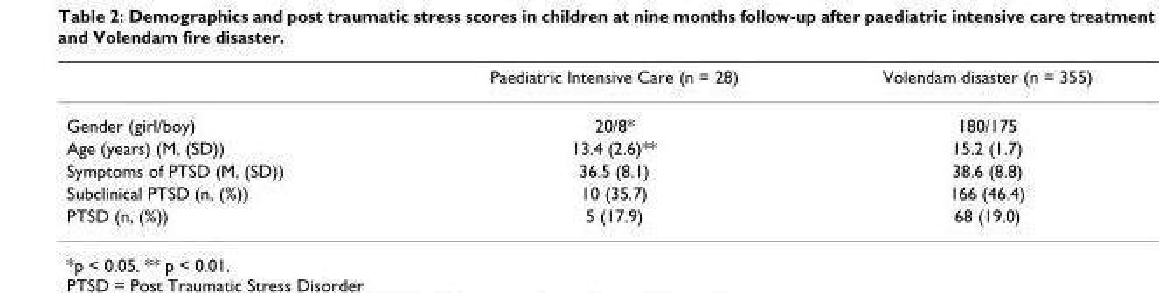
<table><thead><tr><td></td><td>Paediatric Intensive Care (n = 28)</td><td>Volendam disaster (n = 355)</td></tr></thead><tbody><tr><td>Gender (girl/boy)</td><td>20/8*</td><td>180/175</td></tr><tr><td>Age (years) (M, (SD))</td><td>13.4 (2.6)**</td><td>15.2 (1.7)</td></tr><tr><td>Symptoms of PTSD (M, (SD))</td><td>36.5 (8.1)</td><td>38.6 (8.8)</td></tr><tr><td>Subclinical PTSD (n, (%))</td><td>10 (35.7)</td><td>166 (46.4)</td></tr><tr><td>PTSD (n, (%))</td><td>5 (17.9)</td><td>68 (19.0)</td></tr></tbody></table>